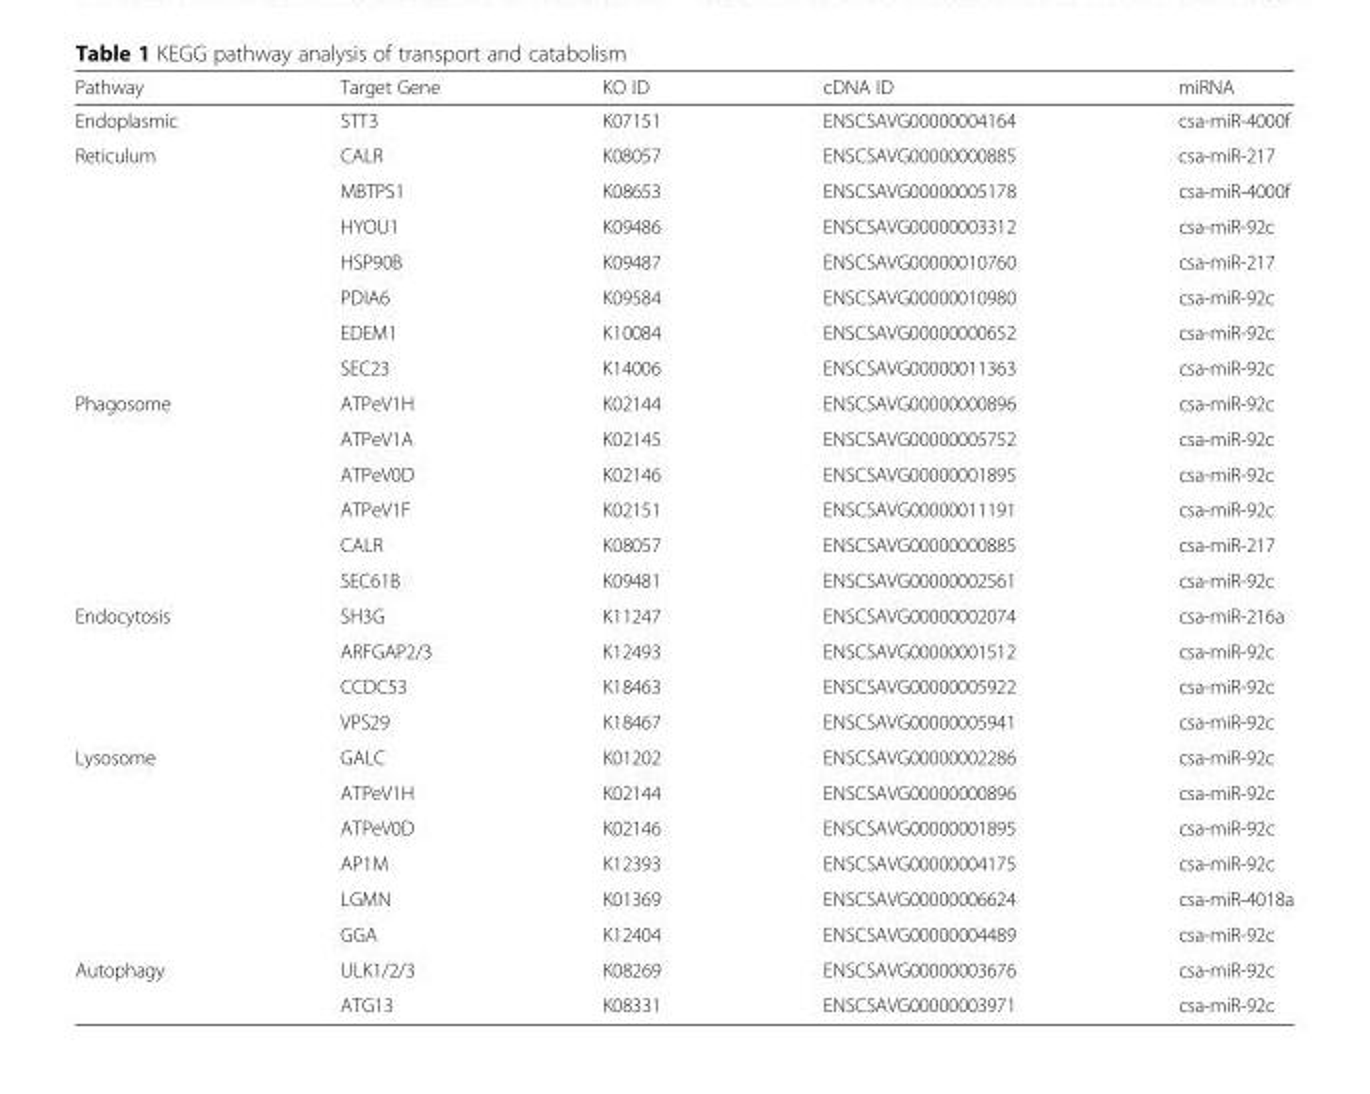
<table><thead><tr><td>Pathway</td><td>Target Gene</td><td>KO ID</td><td>cDNA ID</td><td>miRNA</td></tr></thead><tbody><tr><td>Endoplasmic</td><td>STT3</td><td>K07151</td><td>ENSCSAVG00000004164</td><td>csa-miR-4000f</td></tr><tr><td rowspan="7">Reticulum</td><td>CALR</td><td>K08057</td><td>ENSCSAVG00000000885</td><td>csa-miR-217</td></tr><tr><td>MBTPS1</td><td>K08653</td><td>ENSCSAVG00000005178</td><td>csa-miR-4000f</td></tr><tr><td>HYOU1</td><td>K09486</td><td>ENSCSAVG00000003312</td><td>csa-miR-92c</td></tr><tr><td>HSP90B</td><td>K09487</td><td>ENSCSAVG00000010760</td><td>csa-miR-217</td></tr><tr><td>PDIA6</td><td>K09584</td><td>ENSCSAVG00000010980</td><td>csa-miR-92c</td></tr><tr><td>EDEM1</td><td>K10084</td><td>ENSCSAVG00000000652</td><td>csa-miR-92c</td></tr><tr><td>SEC23</td><td>K14006</td><td>ENSCSAVG00000011363</td><td>csa-miR-92c</td></tr><tr><td rowspan="6">Phagosome</td><td>ATPeV1H</td><td>K02144</td><td>ENSCSAVG00000000896</td><td>csa-miR-92c</td></tr><tr><td>ATPeV1A</td><td>K02145</td><td>ENSCSAVG00000005752</td><td>csa-miR-92c</td></tr><tr><td>ATPeV0D</td><td>K02146</td><td>ENSCSAVG00000001895</td><td>csa-miR-92c</td></tr><tr><td>ATPeV1F</td><td>K02151</td><td>ENSCSAVG00000011191</td><td>csa-miR-92c</td></tr><tr><td>CALR</td><td>K08057</td><td>ENSCSAVG00000000885</td><td>csa-miR-217</td></tr><tr><td>SEC61B</td><td>K09481</td><td>ENSCSAVG00000002561</td><td>csa-miR-92c</td></tr><tr><td rowspan="4">Endocytosis</td><td>SH3G</td><td>K11247</td><td>ENSCSAVG00000002074</td><td>csa-miR-216a</td></tr><tr><td>ARFGAP2/3</td><td>K12493</td><td>ENSCSAVG00000001512</td><td>csa-miR-92c</td></tr><tr><td>CCDC53</td><td>K18463</td><td>ENSCSAVG00000005922</td><td>csa-miR-92c</td></tr><tr><td>VPS29</td><td>K18467</td><td>ENSCSAVG00000005941</td><td>csa-miR-92c</td></tr><tr><td rowspan="6">Lysosome</td><td>GALC</td><td>K01202</td><td>ENSCSAVG00000002286</td><td>csa-miR-92c</td></tr><tr><td>ATPeV1H</td><td>K02144</td><td>ENSCSAVG00000000896</td><td>csa-miR-92c</td></tr><tr><td>ATPeV0D</td><td>K02146</td><td>ENSCSAVG00000001895</td><td>csa-miR-92c</td></tr><tr><td>AP1M</td><td>K12393</td><td>ENSCSAVG00000004175</td><td>csa-miR-92c</td></tr><tr><td>LGMN</td><td>K01369</td><td>ENSCSAVG00000006624</td><td>csa-miR-4018a</td></tr><tr><td>GGA</td><td>K12404</td><td>ENSCSAVG00000004489</td><td>csa-miR-92c</td></tr><tr><td rowspan="2">Autophagy</td><td>ULK1/2/3</td><td>K08269</td><td>ENSCSAVG00000003676</td><td>csa-miR-92c</td></tr><tr><td>ATG13</td><td>K08331</td><td>ENSCSAVG00000003971</td><td>csa-miR-92c</td></tr></tbody></table>